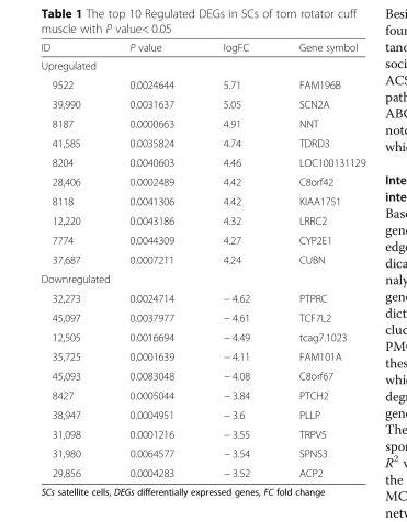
<table><thead><tr><td>ID</td><td>P value</td><td>logFC</td><td>Gene symbol</td></tr></thead><tbody><tr><td colspan="4">Upregulated</td></tr><tr><td>9522</td><td>0.0024644</td><td>5.71</td><td>FAM196B</td></tr><tr><td>39,990</td><td>0.0031637</td><td>5.05</td><td>SCN2A</td></tr><tr><td>8187</td><td>0.0000663</td><td>4.91</td><td>NNT</td></tr><tr><td>41,585</td><td>0.0035824</td><td>4.74</td><td>TDRD3</td></tr><tr><td>8204</td><td>0.0040603</td><td>4.46</td><td>LOC100131129</td></tr><tr><td>28,406</td><td>0.0002489</td><td>4.42</td><td>C8orf42</td></tr><tr><td>8118</td><td>0.0041306</td><td>4.42</td><td>KIAA1751</td></tr><tr><td>12,220</td><td>0.0043186</td><td>4.32</td><td>LRRC2</td></tr><tr><td>7774</td><td>0.0044309</td><td>4.27</td><td>CYP2E1</td></tr><tr><td>37,687</td><td>0.0007211</td><td>4.24</td><td>CUBN</td></tr><tr><td colspan="4">Downregulated</td></tr><tr><td>32,273</td><td>0.0024714</td><td>− 4.62</td><td>PTPRC</td></tr><tr><td>45,097</td><td>0.0037977</td><td>− 4.61</td><td>TCF7L2</td></tr><tr><td>12,505</td><td>0.0016694</td><td>− 4.49</td><td>tcag7.1023</td></tr><tr><td>35,725</td><td>0.0001639</td><td>− 4.11</td><td>FAM101A</td></tr><tr><td>45,093</td><td>0.0083048</td><td>− 4.08</td><td>C8orf67</td></tr><tr><td>8427</td><td>0.0005044</td><td>− 3.84</td><td>PTCH2</td></tr><tr><td>38,947</td><td>0.0004951</td><td>− 3.6</td><td>PLLP</td></tr><tr><td>31,098</td><td>0.0001216</td><td>− 3.55</td><td>TRPV5</td></tr><tr><td>31,980</td><td>0.0064577</td><td>− 3.54</td><td>SPNS3</td></tr><tr><td>29,856</td><td>0.0004283</td><td>− 3.52</td><td>ACP2</td></tr></tbody></table>